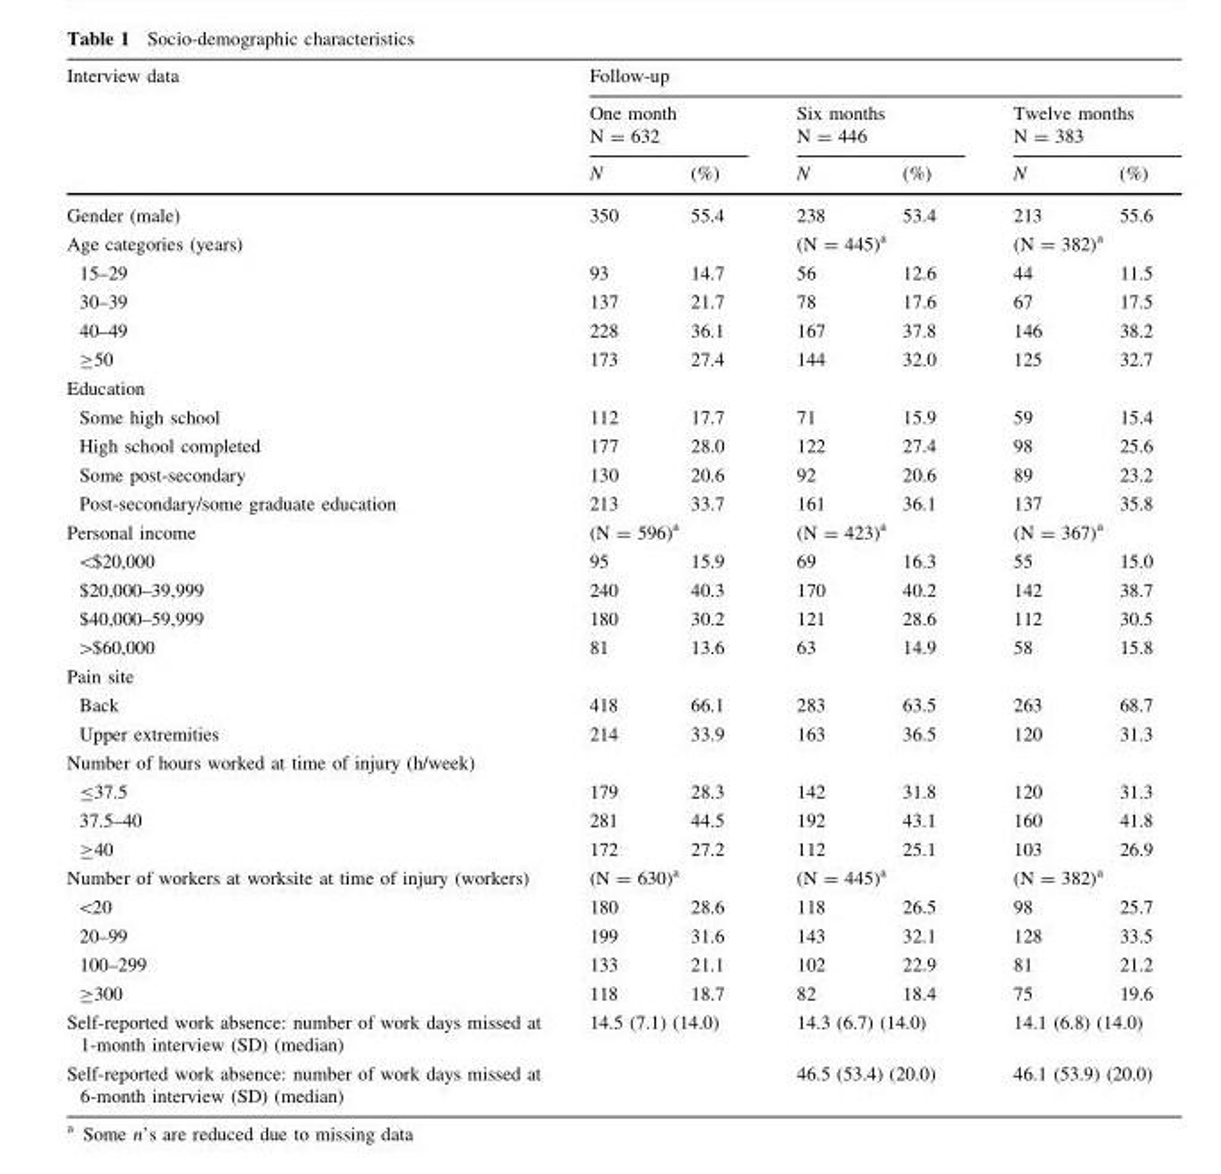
<table><thead><tr><td rowspan="3">Interview data</td><td colspan="6">Follow-up</td></tr><tr><td colspan="2">One month N = 632</td><td colspan="2">Six months N = 446</td><td colspan="2">Twelve months N = 383</td></tr><tr><td>N</td><td>(%)</td><td>N</td><td>(%)</td><td>N</td><td>(%)</td></tr></thead><tbody><tr><td>Gender (male)</td><td>350</td><td>55.4</td><td>238</td><td>53.4</td><td>213</td><td>55.6</td></tr><tr><td>Age categories (years)</td><td></td><td></td><td colspan="2">(N = 445)<sup>a</sup></td><td colspan="2">(N = 382)<sup>a</sup></td></tr><tr><td>15–29</td><td>93</td><td>14.7</td><td>56</td><td>12.6</td><td>44</td><td>11.5</td></tr><tr><td>30–39</td><td>137</td><td>21.7</td><td>78</td><td>17.6</td><td>67</td><td>17.5</td></tr><tr><td>40–49</td><td>228</td><td>36.1</td><td>167</td><td>37.8</td><td>146</td><td>38.2</td></tr><tr><td>≥50</td><td>173</td><td>27.4</td><td>144</td><td>32.0</td><td>125</td><td>32.7</td></tr><tr><td colspan="7">Education</td></tr><tr><td>Some high school</td><td>112</td><td>17.7</td><td>71</td><td>15.9</td><td>59</td><td>15.4</td></tr><tr><td>High school completed</td><td>177</td><td>28.0</td><td>122</td><td>27.4</td><td>98</td><td>25.6</td></tr><tr><td>Some post-secondary</td><td>130</td><td>20.6</td><td>92</td><td>20.6</td><td>89</td><td>23.2</td></tr><tr><td>Post-secondary/some graduate education</td><td>213</td><td>33.7</td><td>161</td><td>36.1</td><td>137</td><td>35.8</td></tr><tr><td>Personal income</td><td colspan="2">(N = 596)<sup>a</sup></td><td colspan="2">(N = 423)<sup>a</sup></td><td colspan="2">(N = 367)<sup>a</sup></td></tr><tr><td>&lt;$20,000</td><td>95</td><td>15.9</td><td>69</td><td>16.3</td><td>55</td><td>15.0</td></tr><tr><td>$20,000–39,999</td><td>240</td><td>40.3</td><td>170</td><td>40.2</td><td>142</td><td>38.7</td></tr><tr><td>$40,000–59,999</td><td>180</td><td>30.2</td><td>121</td><td>28.6</td><td>112</td><td>30.5</td></tr><tr><td>&gt;$60,000</td><td>81</td><td>13.6</td><td>63</td><td>14.9</td><td>58</td><td>15.8</td></tr><tr><td colspan="7">Pain site</td></tr><tr><td>Back</td><td>418</td><td>66.1</td><td>283</td><td>63.5</td><td>263</td><td>68.7</td></tr><tr><td>Upper extremities</td><td>214</td><td>33.9</td><td>163</td><td>36.5</td><td>120</td><td>31.3</td></tr><tr><td colspan="7">Number of hours worked at time of injury (h/week)</td></tr><tr><td>≤37.5</td><td>179</td><td>28.3</td><td>142</td><td>31.8</td><td>120</td><td>31.3</td></tr><tr><td>37.5–40</td><td>281</td><td>44.5</td><td>192</td><td>43.1</td><td>160</td><td>41.8</td></tr><tr><td>≥40</td><td>172</td><td>27.2</td><td>112</td><td>25.1</td><td>103</td><td>26.9</td></tr><tr><td>Number of workers at worksite at time of injury (workers)</td><td colspan="2">(N = 630)<sup>a</sup></td><td colspan="2">(N = 445)<sup>a</sup></td><td colspan="2">(N = 382)<sup>a</sup></td></tr><tr><td>&lt;20</td><td>180</td><td>28.6</td><td>118</td><td>26.5</td><td>98</td><td>25.7</td></tr><tr><td>20–99</td><td>199</td><td>31.6</td><td>143</td><td>32.1</td><td>128</td><td>33.5</td></tr><tr><td>100–299</td><td>133</td><td>21.1</td><td>102</td><td>22.9</td><td>81</td><td>21.2</td></tr><tr><td>≥300</td><td>118</td><td>18.7</td><td>82</td><td>18.4</td><td>75</td><td>19.6</td></tr><tr><td>Self-reported work absence: number of work days missed at 1-month interview (SD) (median)</td><td colspan="2">14.5 (7.1) (14.0)</td><td colspan="2">14.3 (6.7) (14.0)</td><td colspan="2">14.1 (6.8) (14.0)</td></tr><tr><td>Self-reported work absence: number of work days missed at 6-month interview (SD) (median)</td><td colspan="2"></td><td colspan="2">46.5 (53.4) (20.0)</td><td colspan="2">46.1 (53.9) (20.0)</td></tr></tbody></table>